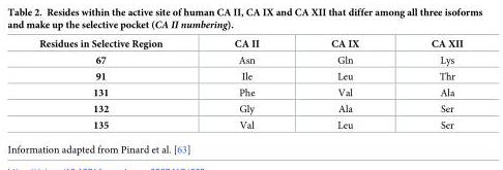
<table><thead><tr><td>Residues in Selective Region</td><td>CA II</td><td>CA IX</td><td>CA XII</td></tr></thead><tbody><tr><td>67</td><td>Asn</td><td>Gln</td><td>Lys</td></tr><tr><td>91</td><td>Ile</td><td>Leu</td><td>Thr</td></tr><tr><td>131</td><td>Phe</td><td>Val</td><td>Ala</td></tr><tr><td>132</td><td>Gly</td><td>Ala</td><td>Ser</td></tr><tr><td>135</td><td>Val</td><td>Leu</td><td>Ser</td></tr></tbody></table>